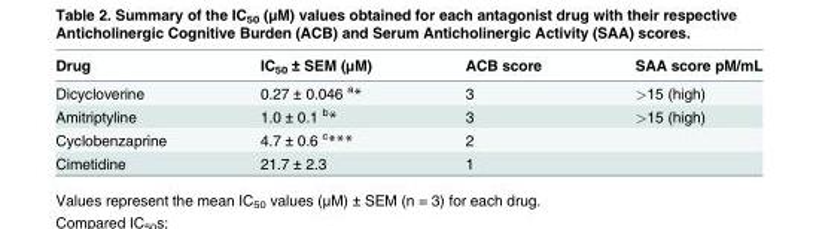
<table><thead><tr><td>Drug</td><td>IC<sub>50</sub> ± SEM (μM)</td><td>ACB score</td><td>SAA score pM/mL</td></tr></thead><tbody><tr><td>Dicycloverine</td><td>0.27 ± 0.046 <sup>a</sup>*</td><td>3</td><td>&gt;15 (high)</td></tr><tr><td>Amitriptyline</td><td>1.0 ± 0.1 <sup>b</sup>*</td><td>3</td><td>&gt;15 (high)</td></tr><tr><td>Cyclobenzaprine</td><td>4.7 ± 0.6 <sup>c</sup>***</td><td>2</td><td></td></tr><tr><td>Cimetidine</td><td>21.7 ± 2.3</td><td>1</td><td></td></tr></tbody></table>